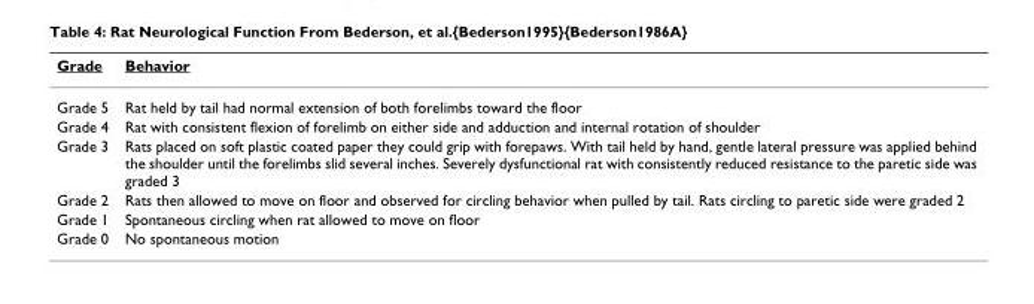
<table><thead><tr><td>Grade</td><td>Behavior</td></tr></thead><tbody><tr><td>Grade 5</td><td>Rat held by tail had normal extension of both forelimbs toward the floor</td></tr><tr><td>Grade 4</td><td>Rat with consistent flexion of forelimb on either side and adduction and internal rotation of shoulder</td></tr><tr><td>Grade 3</td><td>Rats placed on soft plastic coated paper they could grip with forepaws. With tail held by hand, gentle lateral pressure was applied behind the shoulder until the forelimbs slid several inches. Severely dysfunctional rat with consistently reduced resistance to the paretic side was graded 3</td></tr><tr><td>Grade 2</td><td>Rats then allowed to move on floor and observed for circling behavior when pulled by tail. Rats circling to paretic side were graded 2</td></tr><tr><td>Grade 1</td><td>Spontaneous circling when rat allowed to move on floor</td></tr><tr><td>Grade 0</td><td>No spontaneous motion</td></tr></tbody></table>